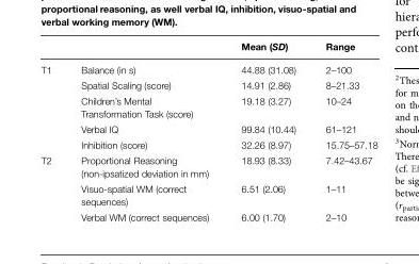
<table><thead><tr><td></td><td></td><td>Mean (SD)</td><td>Range</td></tr></thead><tbody><tr><td rowspan="5">T1</td><td>Balance (in s)</td><td>44.88 (31.08)</td><td>2–100</td></tr><tr><td>Spatial Scaling (score)</td><td>14.91 (2.86)</td><td>8–21.33</td></tr><tr><td>Children’s Mental Transformation Task (score)</td><td>19.18 (3.27)</td><td>10–24</td></tr><tr><td>Verbal IQ</td><td>99.84 (10.44)</td><td>61–121</td></tr><tr><td>Inhibition (score)</td><td>32.26 (8.97)</td><td>15.75–57.18</td></tr><tr><td rowspan="3">T2</td><td>Proportional Reasoning (non-ipsatized deviation in mm)</td><td>18.93 (8.33)</td><td>7.42–43.67</td></tr><tr><td>Visuo-spatial WM (correct sequences)</td><td>6.51 (2.06)</td><td>1–11</td></tr><tr><td>Verbal WM (correct sequences)</td><td>6.00 (1.70)</td><td>2–10</td></tr></tbody></table>